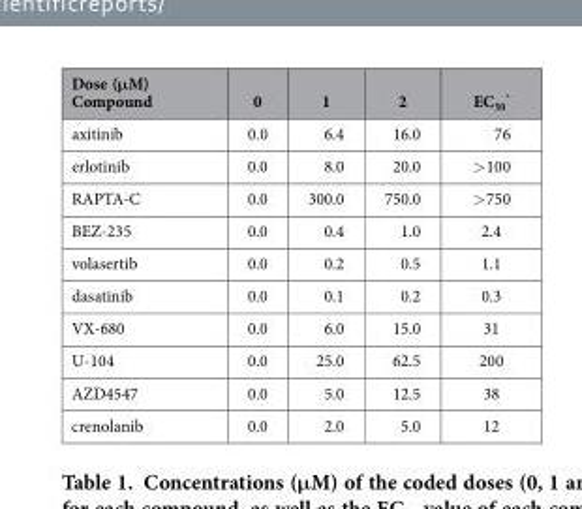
<table><thead><tr><td>Dose (μM) Compound</td><td>0</td><td>1</td><td>2</td><td>EC<sub>50</sub> *</td></tr></thead><tbody><tr><td>axitinib</td><td>0.0</td><td>6.4</td><td>16.0</td><td>76</td></tr><tr><td>erlotinib</td><td>0.0</td><td>8.0</td><td>20.0</td><td>&gt; 100</td></tr><tr><td>RAPTA-C</td><td>0.0</td><td>300.0</td><td>750.0</td><td>&gt; 750</td></tr><tr><td>BEZ-235</td><td>0.0</td><td>0.4</td><td>1.0</td><td>2.4</td></tr><tr><td>volasertib</td><td>0.0</td><td>0.2</td><td>0.5</td><td>1.1</td></tr><tr><td>dasatinib</td><td>0.0</td><td>0.1</td><td>0.2</td><td>0.3</td></tr><tr><td>VX-680</td><td>0.0</td><td>6.0</td><td>15.0</td><td>31</td></tr><tr><td>U-104</td><td>0.0</td><td>25.0</td><td>62.5</td><td>200</td></tr><tr><td>AZD4547</td><td>0.0</td><td>5.0</td><td>12.5</td><td>38</td></tr><tr><td>crenolanib</td><td>0.0</td><td>2.0</td><td>5.0</td><td>12</td></tr></tbody></table>